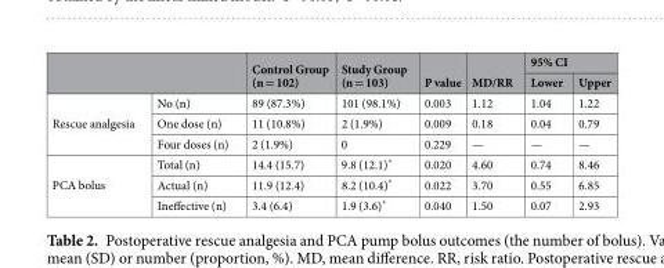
<table><thead><tr><td rowspan="2"></td><td rowspan="2"></td><td rowspan="2">Control Group (n = 102)</td><td rowspan="2">Study Group (n = 103)</td><td rowspan="2">P value</td><td rowspan="2">MD/RR</td><td colspan="2">95% CI</td></tr><tr><td>Lower</td><td>Upper</td></tr></thead><tbody><tr><td rowspan="3">Rescue analgesia</td><td>No (n)</td><td>89 (87.3%)</td><td>101 (98.1%)</td><td>0.003</td><td>1.12</td><td>1.04</td><td>1.22</td></tr><tr><td>One dose (n)</td><td>11 (10.8%)</td><td>2 (1.9%)</td><td>0.009</td><td>0.18</td><td>0.04</td><td>0.79</td></tr><tr><td>Four doses (n)</td><td>2 (1.9%)</td><td>0</td><td>0.229</td><td>—</td><td>—</td><td>—</td></tr><tr><td rowspan="3">PCA bolus</td><td>Total (n)</td><td>14.4 (15.7)</td><td>9.8 (12.1)*</td><td>0.020</td><td>4.60</td><td>0.74</td><td>8.46</td></tr><tr><td>Actual (n)</td><td>11.9 (12.4)</td><td>8.2 (10.4)*</td><td>0.022</td><td>3.70</td><td>0.55</td><td>6.85</td></tr><tr><td>Ineffective (n)</td><td>3.4 (6.4)</td><td>1.9 (3.6)*</td><td>0.040</td><td>1.50</td><td>0.07</td><td>2.93</td></tr></tbody></table>